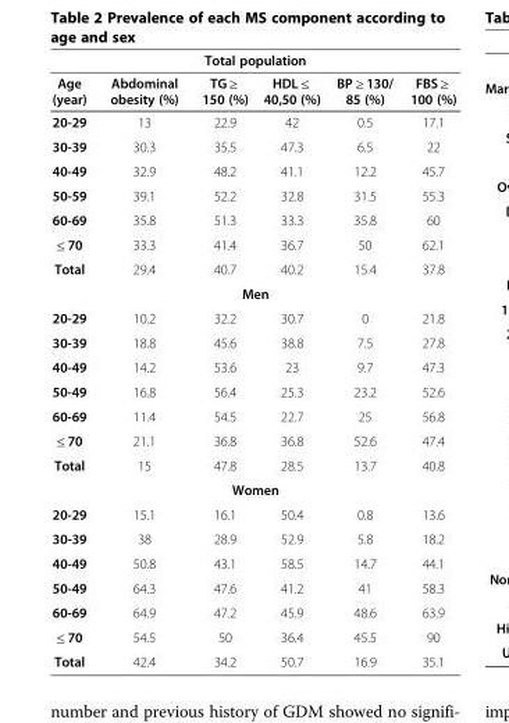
<table><thead><tr><td colspan="6">Total population</td></tr><tr><td>Age (year)</td><td>Abdominal obesity (%)</td><td>TG ≥ 150 (%)</td><td>HDL ≤ 40,50 (%)</td><td>BP ≥ 130/ 85 (%)</td><td>FBS ≥ 100 (%)</td></tr></thead><tbody><tr><td>20-29</td><td>13</td><td>22.9</td><td>42</td><td>0.5</td><td>17.1</td></tr><tr><td>30-39</td><td>30.3</td><td>35.5</td><td>47.3</td><td>6.5</td><td>22</td></tr><tr><td>40-49</td><td>32.9</td><td>48.2</td><td>41.1</td><td>12.2</td><td>45.7</td></tr><tr><td>50-59</td><td>39.1</td><td>52.2</td><td>32.8</td><td>31.5</td><td>55.3</td></tr><tr><td>60-69</td><td>35.8</td><td>51.3</td><td>33.3</td><td>35.8</td><td>60</td></tr><tr><td>≤ 70</td><td>33.3</td><td>41.4</td><td>36.7</td><td>50</td><td>62.1</td></tr><tr><td>Total</td><td>29.4</td><td>40.7</td><td>40.2</td><td>15.4</td><td>37.8</td></tr><tr><td colspan="6">Men</td></tr><tr><td>20-29</td><td>10.2</td><td>32.2</td><td>30.7</td><td>0</td><td>21.8</td></tr><tr><td>30-39</td><td>18.8</td><td>45.6</td><td>38.8</td><td>7.5</td><td>27.8</td></tr><tr><td>40-49</td><td>14.2</td><td>53.6</td><td>23</td><td>9.7</td><td>47.3</td></tr><tr><td>50-49</td><td>16.8</td><td>56.4</td><td>25.3</td><td>23.2</td><td>52.6</td></tr><tr><td>60-69</td><td>11.4</td><td>54.5</td><td>22.7</td><td>25</td><td>56.8</td></tr><tr><td>≤ 70</td><td>21.1</td><td>36.8</td><td>36.8</td><td>52.6</td><td>47.4</td></tr><tr><td>Total</td><td>15</td><td>47.8</td><td>28.5</td><td>13.7</td><td>40.8</td></tr><tr><td colspan="6">Women</td></tr><tr><td>20-29</td><td>15.1</td><td>16.1</td><td>50.4</td><td>0.8</td><td>13.6</td></tr><tr><td>30-39</td><td>38</td><td>28.9</td><td>52.9</td><td>5.8</td><td>18.2</td></tr><tr><td>40-49</td><td>50.8</td><td>43.1</td><td>58.5</td><td>14.7</td><td>44.1</td></tr><tr><td>50-49</td><td>64.3</td><td>47.6</td><td>41.2</td><td>41</td><td>58.3</td></tr><tr><td>60-69</td><td>64.9</td><td>47.2</td><td>45.9</td><td>48.6</td><td>63.9</td></tr><tr><td>≤ 70</td><td>54.5</td><td>50</td><td>36.4</td><td>45.5</td><td>90</td></tr><tr><td>Total</td><td>42.4</td><td>34.2</td><td>50.7</td><td>16.9</td><td>35.1</td></tr></tbody></table>